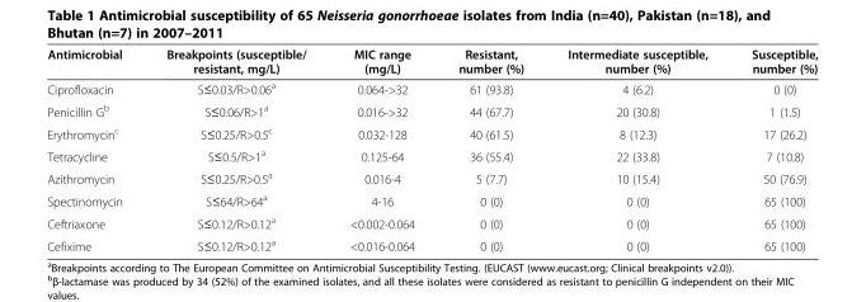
<table><thead><tr><td>Antimicrobial</td><td>Breakpoints (susceptible/ resistant, mg/L)</td><td>MIC range (mg/L)</td><td>Resistant, number (%)</td><td>Intermediate susceptible, number (%)</td><td>Susceptible, number (%)</td></tr></thead><tbody><tr><td>Ciprofloxacin</td><td>S≤0.03/R&gt;0.06<sup>a</sup></td><td>0.064-&gt;32</td><td>61 (93.8)</td><td>4 (6.2)</td><td>0 (0)</td></tr><tr><td>Penicillin G<sup>b</sup></td><td>S≤0.06/R&gt;1<sup>a</sup></td><td>0.016-&gt;32</td><td>44 (67.7)</td><td>20 (30.8)</td><td>1 (1.5)</td></tr><tr><td>Erythromycin<sup>c</sup></td><td>S≤0.25/R&gt;0.5<sup>c</sup></td><td>0.032-128</td><td>40 (61.5)</td><td>8 (12.3)</td><td>17 (26.2)</td></tr><tr><td>Tetracycline</td><td>S≤0.5/R&gt;1<sup>a</sup></td><td>0.125-64</td><td>36 (55.4)</td><td>22 (33.8)</td><td>7 (10.8)</td></tr><tr><td>Azithromycin</td><td>S≤0.25/R&gt;0.5<sup>a</sup></td><td>0.016-4</td><td>5 (7.7)</td><td>10 (15.4)</td><td>50 (76.9)</td></tr><tr><td>Spectinomycin</td><td>S≤64/R&gt;64<sup>a</sup></td><td>4-16</td><td>0 (0)</td><td>0 (0)</td><td>65 (100)</td></tr><tr><td>Ceftriaxone</td><td>S≤0.12/R&gt;0.12<sup>a</sup></td><td>&lt;0.002-0.064</td><td>0 (0)</td><td>0 (0)</td><td>65 (100)</td></tr><tr><td>Cefixime</td><td>S≤0.12/R&gt;0.12<sup>a</sup></td><td>&lt;0.016-0.064</td><td>0 (0)</td><td>0 (0)</td><td>65 (100)</td></tr></tbody></table>